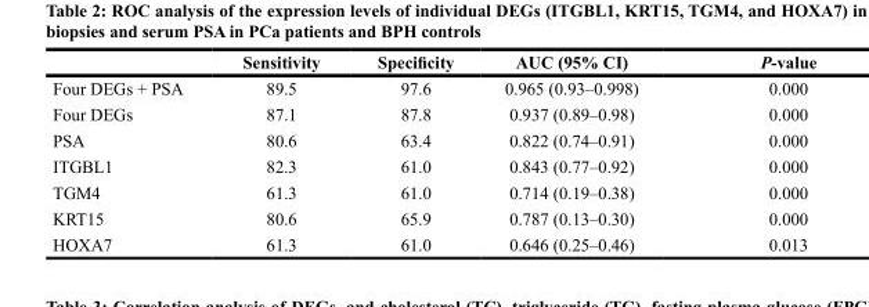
<table><thead><tr><td></td><td>Sensitivity</td><td>Specificity</td><td>AUC (95% CI)</td><td>P-value</td></tr></thead><tbody><tr><td>Four DEGs + PSA</td><td>89.5</td><td>97.6</td><td>0.965 (0.93–0.998)</td><td>0.000</td></tr><tr><td>Four DEGs</td><td>87.1</td><td>87.8</td><td>0.937 (0.89–0.98)</td><td>0.000</td></tr><tr><td>PSA</td><td>80.6</td><td>63.4</td><td>0.822 (0.74–0.91)</td><td>0.000</td></tr><tr><td>ITGBL1</td><td>82.3</td><td>61.0</td><td>0.843 (0.77–0.92)</td><td>0.000</td></tr><tr><td>TGM4</td><td>61.3</td><td>61.0</td><td>0.714 (0.19–0.38)</td><td>0.000</td></tr><tr><td>KRT15</td><td>80.6</td><td>65.9</td><td>0.787 (0.13–0.30)</td><td>0.000</td></tr><tr><td>HOXA7</td><td>61.3</td><td>61.0</td><td>0.646 (0.25–0.46)</td><td>0.013</td></tr></tbody></table>